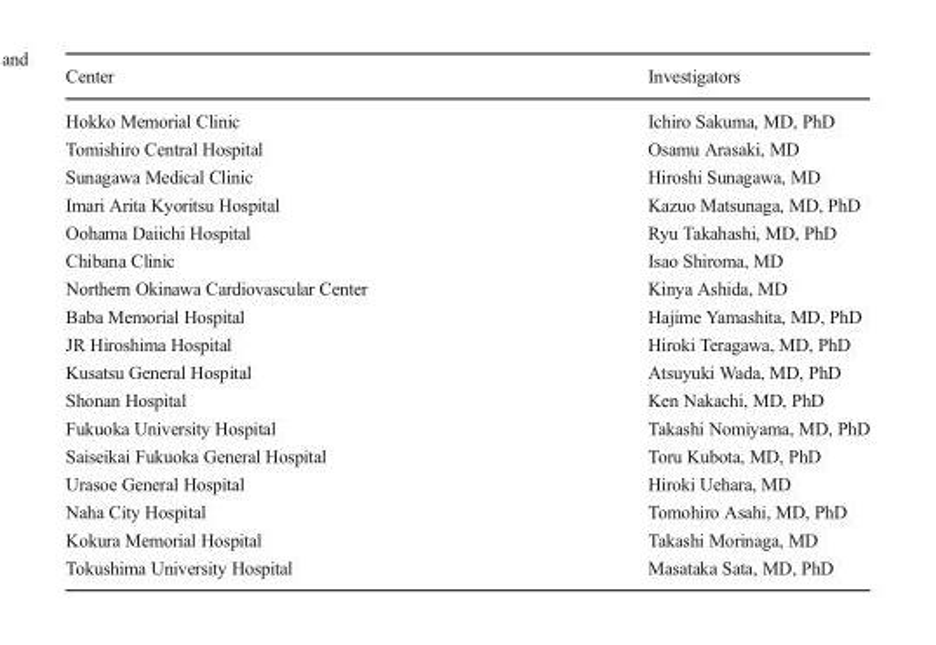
<table><thead><tr><td>Center</td><td>Investigators</td></tr></thead><tbody><tr><td>Hokko Memorial Clinic</td><td>Ichiro Sakuma, MD, PhD</td></tr><tr><td>Tomishiro Central Hospital</td><td>Osamu Arasaki, MD</td></tr><tr><td>Sunagawa Medical Clinic</td><td>Hiroshi Sunagawa, MD</td></tr><tr><td>Imari Arita Kyoritsu Hospital</td><td>Kazuo Matsunaga, MD, PhD</td></tr><tr><td>Oohama Daiichi Hospital</td><td>Ryu Takahashi, MD, PhD</td></tr><tr><td>Chibana Clinic</td><td>Isao Shiroma, MD</td></tr><tr><td>Northern Okinawa Cardiovascular Center</td><td>Kinya Ashida, MD</td></tr><tr><td>Baba Memorial Hospital</td><td>Hajime Yamashita, MD, PhD</td></tr><tr><td>JR Hiroshima Hospital</td><td>Hiroki Teragawa, MD, PhD</td></tr><tr><td>Kusatsu General Hospital</td><td>Atsuyuki Wada, MD, PhD</td></tr><tr><td>Shonan Hospital</td><td>Ken Nakachi, MD, PhD</td></tr><tr><td>Fukuoka University Hospital</td><td>Takashi Nomiyama, MD, PhD</td></tr><tr><td>Saiseikai Fukuoka General Hospital</td><td>Toru Kubota, MD, PhD</td></tr><tr><td>Urasoe General Hospital</td><td>Hiroki Uehara, MD</td></tr><tr><td>Naha City Hospital</td><td>Tomohiro Asahi, MD, PhD</td></tr><tr><td>Kokura Memorial Hospital</td><td>Takashi Morinaga, MD</td></tr><tr><td>Tokushima University Hospital</td><td>Masataka Sata, MD, PhD</td></tr></tbody></table>